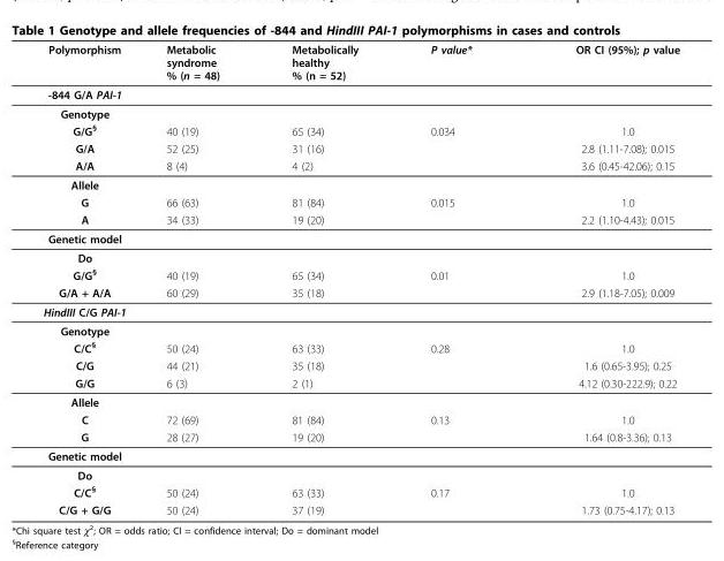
<table><thead><tr><td>Polymorphism</td><td>Metabolic syndrome % (n = 48)</td><td>Metabolically healthy % (n = 52)</td><td>P value*</td><td>OR CI (95%); p value</td></tr></thead><tbody><tr><td colspan="5">-844 G/A PAI-1</td></tr><tr><td colspan="5">Genotype</td></tr><tr><td>G/G<sup>§</sup></td><td>40 (19)</td><td>65 (34)</td><td>0.034</td><td>1.0</td></tr><tr><td>G/A</td><td>52 (25)</td><td>31 (16)</td><td></td><td>2.8 (1.11-7.08); 0.015</td></tr><tr><td>A/A</td><td>8 (4)</td><td>4 (2)</td><td></td><td>3.6 (0.45-42.06); 0.15</td></tr><tr><td colspan="5">Allele</td></tr><tr><td>G</td><td>66 (63)</td><td>81 (84)</td><td>0.015</td><td>1.0</td></tr><tr><td>A</td><td>34 (33)</td><td>19 (20)</td><td></td><td>2.2 (1.10-4.43); 0.015</td></tr><tr><td colspan="5">Genetic model</td></tr><tr><td colspan="5">Do</td></tr><tr><td>G/G<sup>§</sup></td><td>40 (19)</td><td>65 (34)</td><td>0.01</td><td>1.0</td></tr><tr><td>G/A + A/A</td><td>60 (29)</td><td>35 (18)</td><td></td><td>2.9 (1.18-7.05); 0.009</td></tr><tr><td colspan="5">HindIII C/G PAI-1</td></tr><tr><td colspan="5">Genotype</td></tr><tr><td>C/C<sup>§</sup></td><td>50 (24)</td><td>63 (33)</td><td>0.28</td><td>1.0</td></tr><tr><td>C/G</td><td>44 (21)</td><td>35 (18)</td><td></td><td>1.6 (0.65-3.95); 0.25</td></tr><tr><td>G/G</td><td>6 (3)</td><td>2 (1)</td><td></td><td>4.12 (0.30-222.9); 0.22</td></tr><tr><td colspan="5">Allele</td></tr><tr><td>C</td><td>72 (69)</td><td>81 (84)</td><td>0.13</td><td>1.0</td></tr><tr><td>G</td><td>28 (27)</td><td>19 (20)</td><td></td><td>1.64 (0.8-3.36); 0.13</td></tr><tr><td colspan="5">Genetic model</td></tr><tr><td colspan="5">Do</td></tr><tr><td>C/C<sup>§</sup></td><td>50 (24)</td><td>63 (33)</td><td>0.17</td><td>1.0</td></tr><tr><td>C/G + G/G</td><td>50 (24)</td><td>37 (19)</td><td></td><td>1.73 (0.75-4.17); 0.13</td></tr></tbody></table>